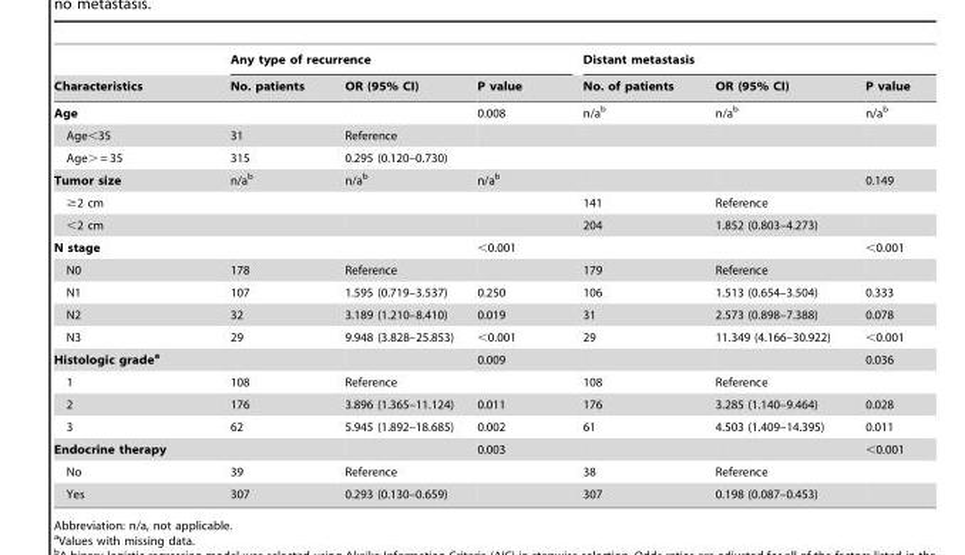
<table><thead><tr><td rowspan="2">Characteristics</td><td colspan="3">Any type of recurrence</td><td colspan="3">Distant metastasis</td></tr><tr><td>No. patients</td><td>OR (95% CI)</td><td>P value</td><td>No. of patients</td><td>OR (95% CI)</td><td>P value</td></tr></thead><tbody><tr><td>Age</td><td></td><td></td><td>0.008</td><td>n/a<sup>b</sup></td><td>n/a<sup>b</sup></td><td>n/a<sup>b</sup></td></tr><tr><td>Age&lt;35</td><td>31</td><td>Reference</td><td></td><td></td><td></td><td></td></tr><tr><td>Age&gt; = 35</td><td>315</td><td>0.295 (0.120–0.730)</td><td></td><td></td><td></td><td></td></tr><tr><td>Tumor size</td><td>n/a<sup>b</sup></td><td>n/a<sup>b</sup></td><td>n/a<sup>b</sup></td><td></td><td></td><td>0.149</td></tr><tr><td>≥2 cm</td><td></td><td></td><td></td><td>141</td><td>Reference</td><td></td></tr><tr><td>&lt;2 cm</td><td></td><td></td><td></td><td>204</td><td>1.852 (0.803–4.273)</td><td></td></tr><tr><td>N stage</td><td></td><td></td><td>&lt;0.001</td><td></td><td></td><td>&lt;0.001</td></tr><tr><td>N0</td><td>178</td><td>Reference</td><td></td><td>179</td><td>Reference</td><td></td></tr><tr><td>N1</td><td>107</td><td>1.595 (0.719–3.537)</td><td>0.250</td><td>106</td><td>1.513 (0.654–3.504)</td><td>0.333</td></tr><tr><td>N2</td><td>32</td><td>3.189 (1.210–8.410)</td><td>0.019</td><td>31</td><td>2.573 (0.898–7.388)</td><td>0.078</td></tr><tr><td>N3</td><td>29</td><td>9.948 (3.828–25.853)</td><td>&lt;0.001</td><td>29</td><td>11.349 (4.166–30.922)</td><td>&lt;0.001</td></tr><tr><td>Histologic gradea</td><td></td><td></td><td>0.009</td><td></td><td></td><td>0.036</td></tr><tr><td>1</td><td>108</td><td>Reference</td><td></td><td>108</td><td>Reference</td><td></td></tr><tr><td>2</td><td>176</td><td>3.896 (1.365–11.124)</td><td>0.011</td><td>176</td><td>3.285 (1.140–9.464)</td><td>0.028</td></tr><tr><td>3</td><td>62</td><td>5.945 (1.892–18.685)</td><td>0.002</td><td>61</td><td>4.503 (1.409–14.395)</td><td>0.011</td></tr><tr><td>Endocrine therapy</td><td></td><td></td><td>0.003</td><td></td><td></td><td>&lt;0.001</td></tr><tr><td>No</td><td>39</td><td>Reference</td><td></td><td>38</td><td>Reference</td><td></td></tr><tr><td>Yes</td><td>307</td><td>0.293 (0.130–0.659)</td><td></td><td>307</td><td>0.198 (0.087–0.453)</td><td></td></tr></tbody></table>